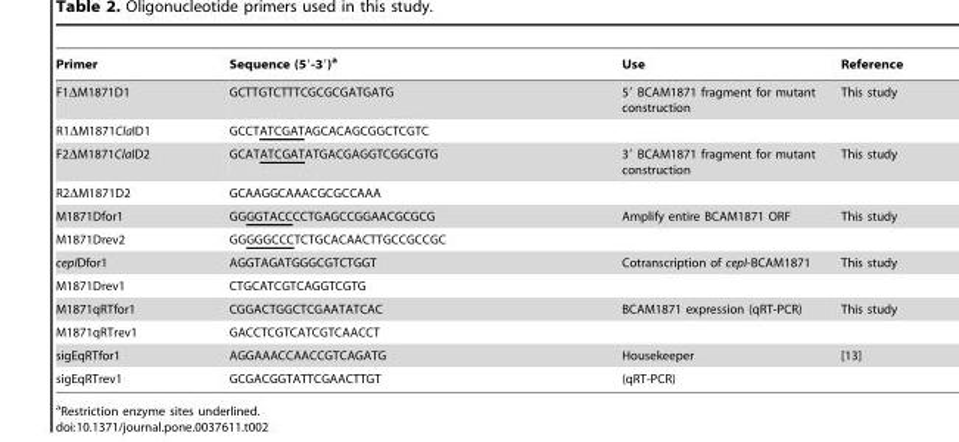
<table><thead><tr><td>Primer</td><td>Sequence (5′-3′)<sup>a</sup></td><td>Use</td><td>Reference</td></tr></thead><tbody><tr><td>F1ΔM1871D1</td><td>GCTTGTCTTTCGCGCGATGATG</td><td>5′ BCAM1871 fragment for mutant construction</td><td>This study</td></tr><tr><td>R1ΔM1871ClaID1</td><td>GCCTATCGATAGCACAGCGGCTCGTC</td><td></td><td></td></tr><tr><td>F2ΔM1871ClaID2</td><td>GCATATCGATATGACGAGGTCGGCGTG</td><td>3′ BCAM1871 fragment for mutant construction</td><td>This study</td></tr><tr><td>R2ΔM1871D2</td><td>GCAAGGCAAACGCGCCAAA</td><td></td><td></td></tr><tr><td>M1871Dfor1</td><td>GGGGTACCCCTGAGCCGGAACGCGCG</td><td>Amplify entire BCAM1871 ORF</td><td>This study</td></tr><tr><td>M1871Drev2</td><td>GGGGGCCCTCTGCACAACTTGCCGCCGC</td><td></td><td></td></tr><tr><td>cepIDfor1</td><td>AGGTAGATGGGCGTCTGGT</td><td>Cotranscription of cepI-BCAM1871</td><td>This study</td></tr><tr><td>M1871Drev1</td><td>CTGCATCGTCAGGTCGTG</td><td></td><td></td></tr><tr><td>M1871qRTfor1</td><td>CGGACTGGCTCGAATATCAC</td><td>BCAM1871 expression (qRT-PCR)</td><td>This study</td></tr><tr><td>M1871qRTrev1</td><td>GACCTCGTCATCGTCAACCT</td><td></td><td></td></tr><tr><td>sigEqRTfor1</td><td>AGGAAACCAACCGTCAGATG</td><td>Housekeeper</td><td>[13]</td></tr><tr><td>sigEqRTrev1</td><td>GCGACGGTATTCGAACTTGT</td><td>(qRT-PCR)</td><td></td></tr></tbody></table>